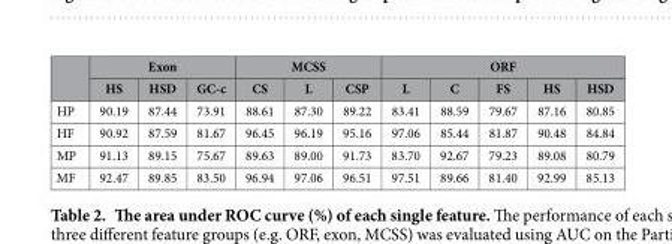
<table><thead><tr><td rowspan="2"></td><td colspan="3">Exon</td><td colspan="3">MCSS</td><td colspan="5">ORF</td></tr><tr><td>HS</td><td>HSD</td><td>GC-c</td><td>CS</td><td>L</td><td>CSP</td><td>L</td><td>C</td><td>FS</td><td>HS</td><td>HSD</td></tr></thead><tbody><tr><td>HP</td><td>90.19</td><td>87.44</td><td>73.91</td><td>88.61</td><td>87.30</td><td>89.22</td><td>83.41</td><td>88.59</td><td>79.67</td><td>87.16</td><td>80.85</td></tr><tr><td>HF</td><td>90.92</td><td>87.59</td><td>81.67</td><td>96.45</td><td>96.19</td><td>95.16</td><td>97.06</td><td>85.44</td><td>81.87</td><td>90.48</td><td>84.84</td></tr><tr><td>MP</td><td>91.13</td><td>89.15</td><td>75.67</td><td>89.63</td><td>89.00</td><td>91.73</td><td>83.70</td><td>92.67</td><td>79.23</td><td>89.08</td><td>80.79</td></tr><tr><td>MF</td><td>92.47</td><td>89.85</td><td>83.50</td><td>96.94</td><td>97.06</td><td>96.51</td><td>97.51</td><td>89.66</td><td>81.40</td><td>92.99</td><td>85.13</td></tr></tbody></table>